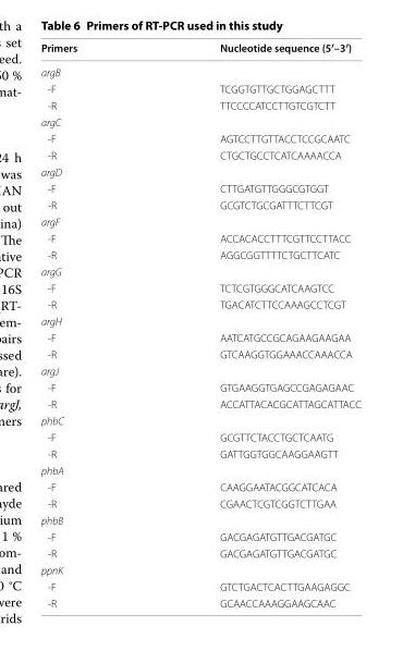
<table><thead><tr><td>Primers</td><td>Nucleotide sequence (5′–3′)</td></tr></thead><tbody><tr><td colspan="2">argB</td></tr><tr><td>-F</td><td>TCGGTGTTGCTGGAGCTTT</td></tr><tr><td>-R</td><td>TTCCCCATCCTTGTCGTCTT</td></tr><tr><td colspan="2">argC</td></tr><tr><td>-F</td><td>AGTCCTTGTTACCTCCGCAATC</td></tr><tr><td>-R</td><td>CTGCTGCCTCATCAAAACCA</td></tr><tr><td colspan="2">argD</td></tr><tr><td>-F</td><td>CTTGATGTTGGGCGTGGT</td></tr><tr><td>-R</td><td>GCGTCTGCGATTTCTTCGT</td></tr><tr><td colspan="2">argF</td></tr><tr><td>-F</td><td>ACCACACCTTTCGTTCCTTACC</td></tr><tr><td>-R</td><td>AGGCGGTTTTCTGCTTCATC</td></tr><tr><td colspan="2">argG</td></tr><tr><td>-F</td><td>TCTCGTGGGCATCAAGTCC</td></tr><tr><td>-R</td><td>TGACATCTTCCAAAGCCTCGT</td></tr><tr><td colspan="2">argH</td></tr><tr><td>-F</td><td>AATCATGCCGCAGAAGAAGAA</td></tr><tr><td>-R</td><td>GTCAAGGTGGAAACCAAACCA</td></tr><tr><td colspan="2">argJ</td></tr><tr><td>-F</td><td>GTGAAGGTGAGCCGAGAGAAC</td></tr><tr><td>-R</td><td>ACCATTACACGCATTAGCATTACC</td></tr><tr><td colspan="2">phbC</td></tr><tr><td>-F</td><td>GCGTTCTACCTGCTCAATG</td></tr><tr><td>-R</td><td>GATTGGTGGCAAGGAAGTT</td></tr><tr><td colspan="2">phbA</td></tr><tr><td>-F</td><td>CAAGGAATACGGCATCACA</td></tr><tr><td>-R</td><td>CGAACTCGTCGGTCTTGAA</td></tr><tr><td colspan="2">phbB</td></tr><tr><td>-F</td><td>GACGAGATGTTGACGATGC</td></tr><tr><td>-R</td><td>GACGAGATGTTGACGATGC</td></tr><tr><td colspan="2">ppnK</td></tr><tr><td>-F</td><td>GTCTGACTCACTTGAAGAGGC</td></tr><tr><td>-R</td><td>GCAACCAAAGGAAGCAAC</td></tr></tbody></table>